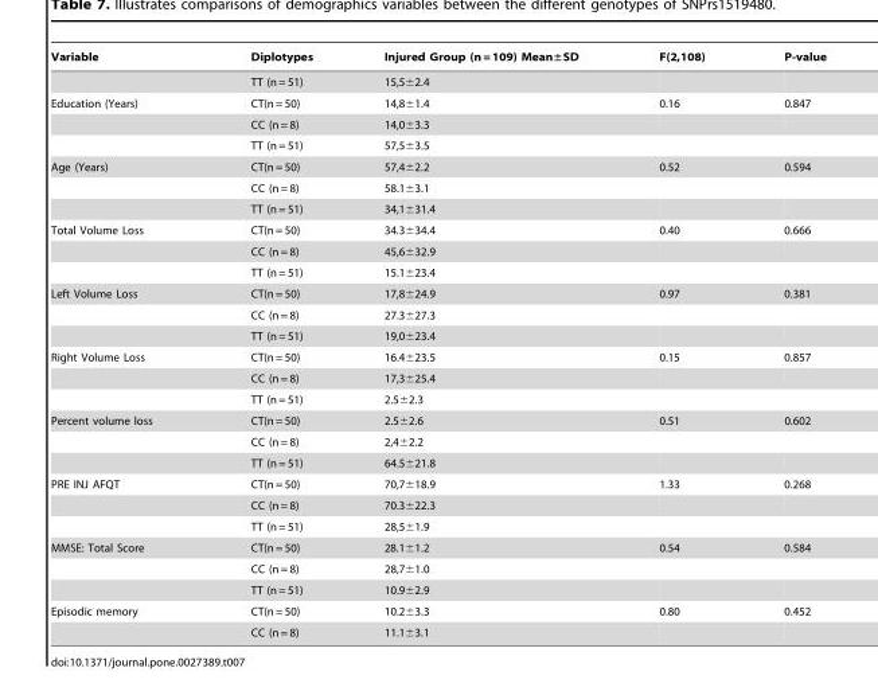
<table><thead><tr><td>Variable</td><td>Diplotypes</td><td>Injured Group (n = 109) Mean±SD</td><td>F(2,108)</td><td>P-value</td></tr></thead><tbody><tr><td></td><td>TT (n = 51)</td><td>15,5±2.4</td><td></td><td></td></tr><tr><td rowspan="3">Education (Years)</td><td>CT(n = 50)</td><td>14,8±1.4</td><td>0.16</td><td>0.847</td></tr><tr><td>CC (n = 8)</td><td>14,0±3.3</td><td></td><td></td></tr><tr><td>TT (n = 51)</td><td>57,5±3.5</td><td></td><td></td></tr><tr><td rowspan="3">Age (Years)</td><td>CT(n = 50)</td><td>57,4±2.2</td><td>0.52</td><td>0.594</td></tr><tr><td>CC (n = 8)</td><td>58.1±3.1</td><td></td><td></td></tr><tr><td>TT (n = 51)</td><td>34,1±31.4</td><td></td><td></td></tr><tr><td rowspan="3">Total Volume Loss</td><td>CT(n = 50)</td><td>34.3±34.4</td><td>0.40</td><td>0.666</td></tr><tr><td>CC (n = 8)</td><td>45,6±32.9</td><td></td><td></td></tr><tr><td>TT (n = 51)</td><td>15.1±23.4</td><td></td><td></td></tr><tr><td rowspan="3">Left Volume Loss</td><td>CT(n = 50)</td><td>17,8±24.9</td><td>0.97</td><td>0.381</td></tr><tr><td>CC (n = 8)</td><td>27.3±27.3</td><td></td><td></td></tr><tr><td>TT (n = 51)</td><td>19,0±23.4</td><td></td><td></td></tr><tr><td rowspan="3">Right Volume Loss</td><td>CT(n = 50)</td><td>16.4±23.5</td><td>0.15</td><td>0.857</td></tr><tr><td>CC (n = 8)</td><td>17,3±25.4</td><td></td><td></td></tr><tr><td>TT (n = 51)</td><td>2.5±2.3</td><td></td><td></td></tr><tr><td rowspan="3">Percent volume loss</td><td>CT(n = 50)</td><td>2.5±2.6</td><td>0.51</td><td>0.602</td></tr><tr><td>CC (n = 8)</td><td>2,4±2.2</td><td></td><td></td></tr><tr><td>TT (n = 51)</td><td>64.5±21.8</td><td></td><td></td></tr><tr><td rowspan="3">PRE INJ AFQT</td><td>CT(n = 50)</td><td>70,7±18.9</td><td>1.33</td><td>0.268</td></tr><tr><td>CC (n = 8)</td><td>70.3±22.3</td><td></td><td></td></tr><tr><td>TT (n = 51)</td><td>28,5±1.9</td><td></td><td></td></tr><tr><td rowspan="3">MMSE: Total Score</td><td>CT(n = 50)</td><td>28.1±1.2</td><td>0.54</td><td>0.584</td></tr><tr><td>CC (n = 8)</td><td>28,7±1.0</td><td></td><td></td></tr><tr><td>TT (n = 51)</td><td>10.9±2.9</td><td></td><td></td></tr><tr><td rowspan="2">Episodic memory</td><td>CT(n = 50)</td><td>10.2±3.3</td><td>0.80</td><td>0.452</td></tr><tr><td>CC (n = 8)</td><td>11.1±3.1</td><td></td><td></td></tr></tbody></table>